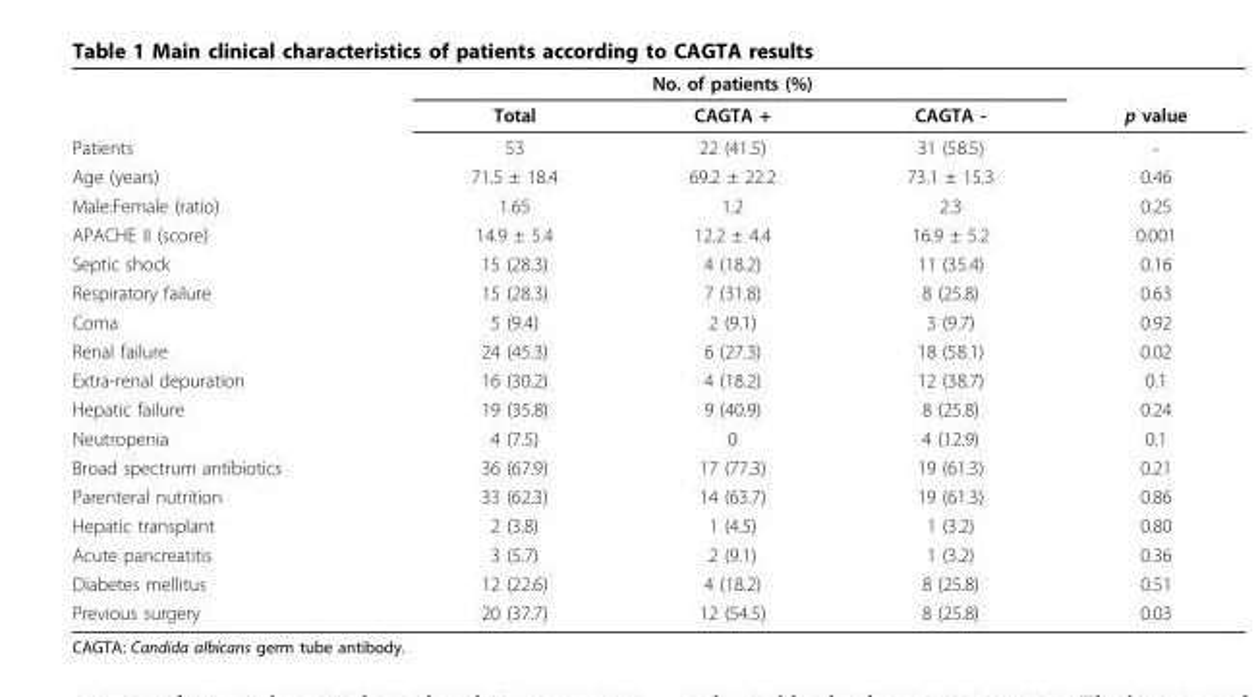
<table><thead><tr><td rowspan="2"></td><td colspan="3">No. of patients (%)</td><td rowspan="2">p value</td></tr><tr><td>Total</td><td>CAGTA +</td><td>CAGTA -</td></tr></thead><tbody><tr><td>Patients</td><td>53</td><td>22 (41.5)</td><td>31 (58.5)</td><td>-</td></tr><tr><td>Age (years)</td><td>71.5 ± 18.4</td><td>69.2 ± 22.2</td><td>73.1 ± 15.3</td><td>0.46</td></tr><tr><td>Male:Female (ratio)</td><td>1.65</td><td>1.2</td><td>2.3</td><td>0.25</td></tr><tr><td>APACHE II (score)</td><td>14.9 ± 5.4</td><td>12.2 ± 4.4</td><td>16.9 ± 5.2</td><td>0.001</td></tr><tr><td>Septic shock</td><td>15 (28.3)</td><td>4 (18.2)</td><td>11 (35.4)</td><td>0.16</td></tr><tr><td>Respiratory failure</td><td>15 (28.3)</td><td>7 (31.8)</td><td>8 (25.8)</td><td>0.63</td></tr><tr><td>Coma</td><td>5 (9.4)</td><td>2 (9.1)</td><td>3 (9.7)</td><td>0.92</td></tr><tr><td>Renal failure</td><td>24 (45.3)</td><td>6 (27.3)</td><td>18 (58.1)</td><td>0.02</td></tr><tr><td>Extra-renal depuration</td><td>16 (30.2)</td><td>4 (18.2)</td><td>12 (38.7)</td><td>0.1</td></tr><tr><td>Hepatic failure</td><td>19 (35.8)</td><td>9 (40.9)</td><td>8 (25.8)</td><td>0.24</td></tr><tr><td>Neutropenia</td><td>4 (7.5)</td><td>0</td><td>4 (12.9)</td><td>0.1</td></tr><tr><td>Broad spectrum antibiotics</td><td>36 (67.9)</td><td>17 (77.3)</td><td>19 (61.3)</td><td>0.21</td></tr><tr><td>Parenteral nutrition</td><td>33 (62.3)</td><td>14 (63.7)</td><td>19 (61.3)</td><td>0.86</td></tr><tr><td>Hepatic transplant</td><td>2 (3.8)</td><td>1 (4.5)</td><td>1 (3.2)</td><td>0.80</td></tr><tr><td>Acute pancreatitis</td><td>3 (5.7)</td><td>2 (9.1)</td><td>1 (3.2)</td><td>0.36</td></tr><tr><td>Diabetes mellitus</td><td>12 (22.6)</td><td>4 (18.2)</td><td>8 (25.8)</td><td>0.51</td></tr><tr><td>Previous surgery</td><td>20 (37.7)</td><td>12 (54.5)</td><td>8 (25.8)</td><td>0.03</td></tr></tbody></table>